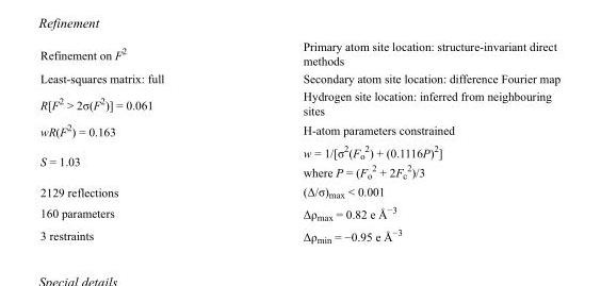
<table><tbody><tr><td>Refinement on F<sup>2</sup></td><td>Primary atom site location: structure-invariant direct methods</td></tr><tr><td>Least-squares matrix: full</td><td>Secondary atom site location: difference Fourier map</td></tr><tr><td>R[F<sup>2</sup> &gt; 2σ(F<sup>2</sup>)] = 0.061</td><td>Hydrogen site location: inferred from neighbouring sites</td></tr><tr><td>wR(F<sup>2</sup>) = 0.163</td><td>H-atom parameters constrained</td></tr><tr><td>S = 1.03</td><td>w = 1/[σ<sup>2</sup>(F<sub>o</sub> <sup>2</sup>) + (0.1116P)<sup>2</sup>] where P = (F<sub>o</sub> <sup>2</sup> + 2F<sub>c</sub> <sup>2</sup>)/3</td></tr><tr><td>2129 reflections</td><td>(Δ/σ)<sub>max</sub> &lt; 0.001</td></tr><tr><td>160 parameters</td><td>Δρ<sub>max</sub> = 0.82 e Å<sup>−3</sup></td></tr><tr><td>3 restraints</td><td>Δρ<sub>min</sub> = −0.95 e Å<sup>−3</sup></td></tr></tbody></table>